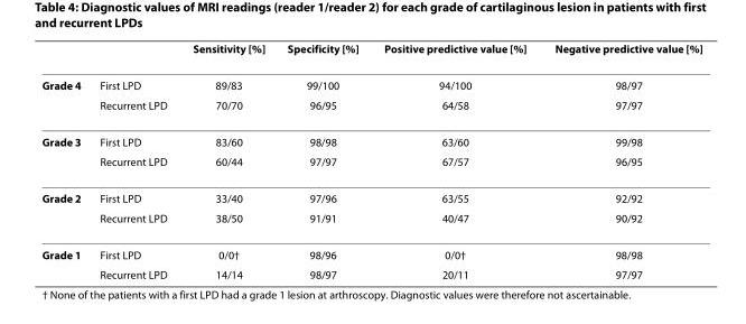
<table><thead><tr><td></td><td></td><td>Sensitivity [%]</td><td>Specificity [%]</td><td>Positive predictive value [%]</td><td>Negative predictive value [%]</td></tr></thead><tbody><tr><td rowspan="2">Grade 4</td><td>First LPD</td><td>89/83</td><td>99/100</td><td>94/100</td><td>98/97</td></tr><tr><td>Recurrent LPD</td><td>70/70</td><td>96/95</td><td>64/58</td><td>97/97</td></tr><tr><td rowspan="2">Grade 3</td><td>First LPD</td><td>83/60</td><td>98/98</td><td>63/60</td><td>99/98</td></tr><tr><td>Recurrent LPD</td><td>60/44</td><td>97/97</td><td>67/57</td><td>96/95</td></tr><tr><td rowspan="2">Grade 2</td><td>First LPD</td><td>33/40</td><td>97/96</td><td>63/55</td><td>92/92</td></tr><tr><td>Recurrent LPD</td><td>38/50</td><td>91/91</td><td>40/47</td><td>90/92</td></tr><tr><td rowspan="2">Grade 1</td><td>First LPD</td><td>0/0†</td><td>98/96</td><td>0/0†</td><td>98/98</td></tr><tr><td>Recurrent LPD</td><td>14/14</td><td>98/97</td><td>20/11</td><td>97/97</td></tr></tbody></table>